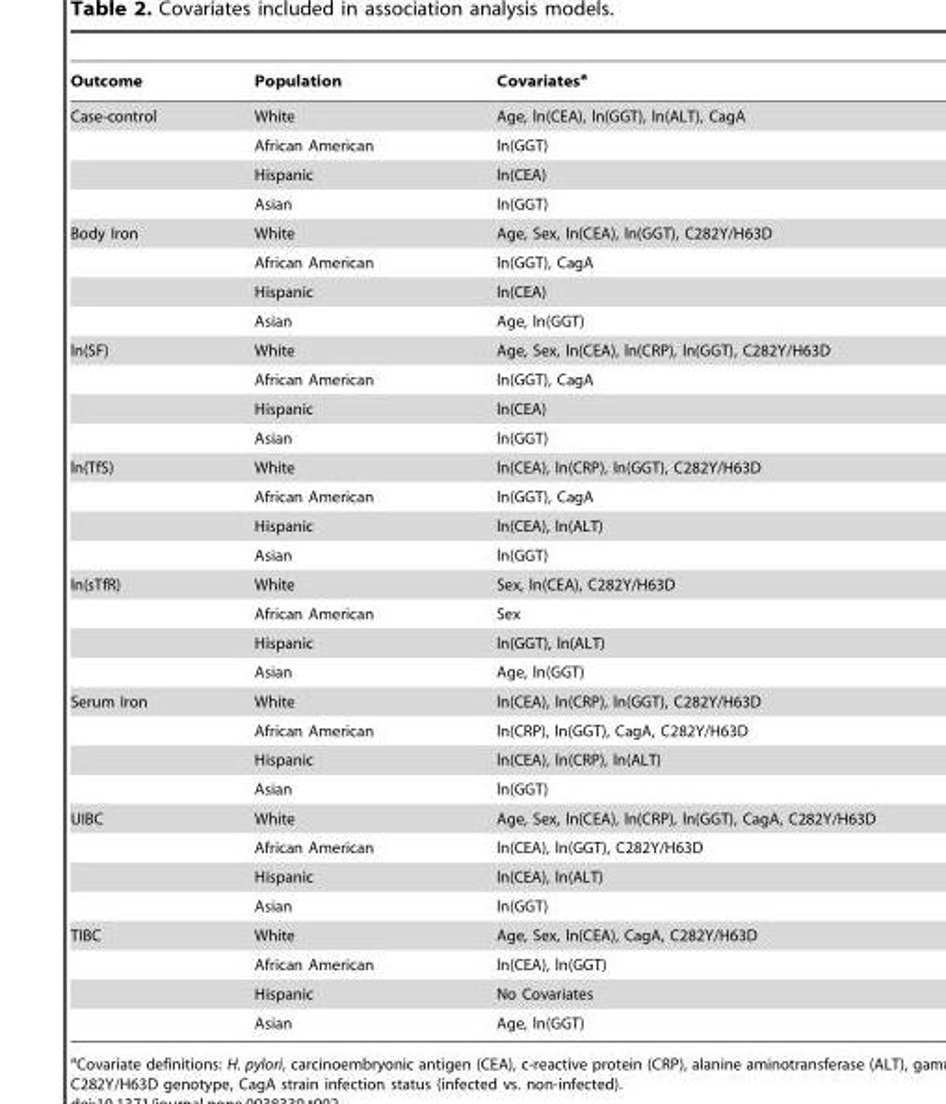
<table><thead><tr><td>Outcome</td><td>Population</td><td>Covariates<sup>a</sup></td></tr></thead><tbody><tr><td rowspan="4">Case-control</td><td>White</td><td>Age, ln(CEA), ln(GGT), ln(ALT), CagA</td></tr><tr><td>African American</td><td>ln(GGT)</td></tr><tr><td>Hispanic</td><td>ln(CEA)</td></tr><tr><td>Asian</td><td>ln(GGT)</td></tr><tr><td rowspan="4">Body Iron</td><td>White</td><td>Age, Sex, ln(CEA), ln(GGT), C282Y/H63D</td></tr><tr><td>African American</td><td>ln(GGT), CagA</td></tr><tr><td>Hispanic</td><td>ln(CEA)</td></tr><tr><td>Asian</td><td>Age, ln(GGT)</td></tr><tr><td rowspan="4">ln(SF)</td><td>White</td><td>Age, Sex, ln(CEA), ln(CRP), ln(GGT), C282Y/H63D</td></tr><tr><td>African American</td><td>ln(GGT), CagA</td></tr><tr><td>Hispanic</td><td>ln(CEA)</td></tr><tr><td>Asian</td><td>ln(GGT)</td></tr><tr><td rowspan="4">ln(TfS)</td><td>White</td><td>ln(CEA), ln(CRP), ln(GGT), C282Y/H63D</td></tr><tr><td>African American</td><td>ln(GGT), CagA</td></tr><tr><td>Hispanic</td><td>ln(CEA), ln(ALT)</td></tr><tr><td>Asian</td><td>ln(GGT)</td></tr><tr><td rowspan="4">ln(sTfR)</td><td>White</td><td>Sex, ln(CEA), C282Y/H63D</td></tr><tr><td>African American</td><td>Sex</td></tr><tr><td>Hispanic</td><td>ln(GGT), ln(ALT)</td></tr><tr><td>Asian</td><td>Age, ln(GGT)</td></tr><tr><td rowspan="4">Serum Iron</td><td>White</td><td>ln(CEA), ln(CRP), ln(GGT), C282Y/H63D</td></tr><tr><td>African American</td><td>ln(CRP), ln(GGT), CagA, C282Y/H63D</td></tr><tr><td>Hispanic</td><td>ln(CEA), ln(CRP), ln(ALT)</td></tr><tr><td>Asian</td><td>ln(GGT)</td></tr><tr><td rowspan="4">UIBC</td><td>White</td><td>Age, Sex, ln(CEA), ln(CRP), ln(GGT), CagA, C282Y/H63D</td></tr><tr><td>African American</td><td>ln(CEA), ln(GGT), C282Y/H63D</td></tr><tr><td>Hispanic</td><td>ln(CEA), ln(ALT)</td></tr><tr><td>Asian</td><td>ln(GGT)</td></tr><tr><td rowspan="4">TIBC</td><td>White</td><td>Age, Sex, ln(CEA), CagA, C282Y/H63D</td></tr><tr><td>African American</td><td>ln(CEA), ln(GGT)</td></tr><tr><td>Hispanic</td><td>No Covariates</td></tr><tr><td>Asian</td><td>Age, ln(GGT)</td></tr></tbody></table>